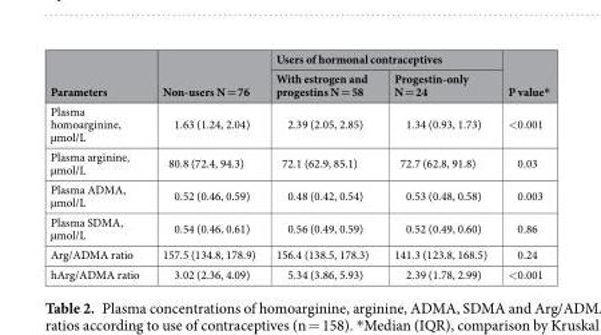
<table><thead><tr><td rowspan="2">Parameters</td><td rowspan="2">Non-users N = 76</td><td colspan="2">Users of hormonal contraceptives</td><td rowspan="2">P value*</td></tr><tr><td>With estrogen and progestins N = 58</td><td>Progestin-only N = 24</td></tr></thead><tbody><tr><td>Plasma homoarginine, µmol/L</td><td>1.63 (1.24, 2.04)</td><td>2.39 (2.05, 2.85)</td><td>1.34 (0.93, 1.73)</td><td>&lt;0.001</td></tr><tr><td>Plasma arginine, µmol/L</td><td>80.8 (72.4, 94.3)</td><td>72.1 (62.9, 85.1)</td><td>72.7 (62.8, 91.8)</td><td>0.03</td></tr><tr><td>Plasma ADMA, µmol/L</td><td>0.52 (0.46, 0.59)</td><td>0.48 (0.42, 0.54)</td><td>0.53 (0.48, 0.58)</td><td>0.003</td></tr><tr><td>Plasma SDMA, µmol/L</td><td>0.54 (0.46, 0.61)</td><td>0.56 (0.49, 0.59)</td><td>0.52 (0.49, 0.60)</td><td>0.86</td></tr><tr><td>Arg/ADMA ratio</td><td>157.5 (134.8, 178.9)</td><td>156.4 (138.5, 178.3)</td><td>141.3 (123.8, 168.5)</td><td>0.24</td></tr><tr><td>hArg/ADMA ratio</td><td>3.02 (2.36, 4.09)</td><td>5.34 (3.86, 5.93)</td><td>2.39 (1.78, 2.99)</td><td>&lt;0.001</td></tr></tbody></table>